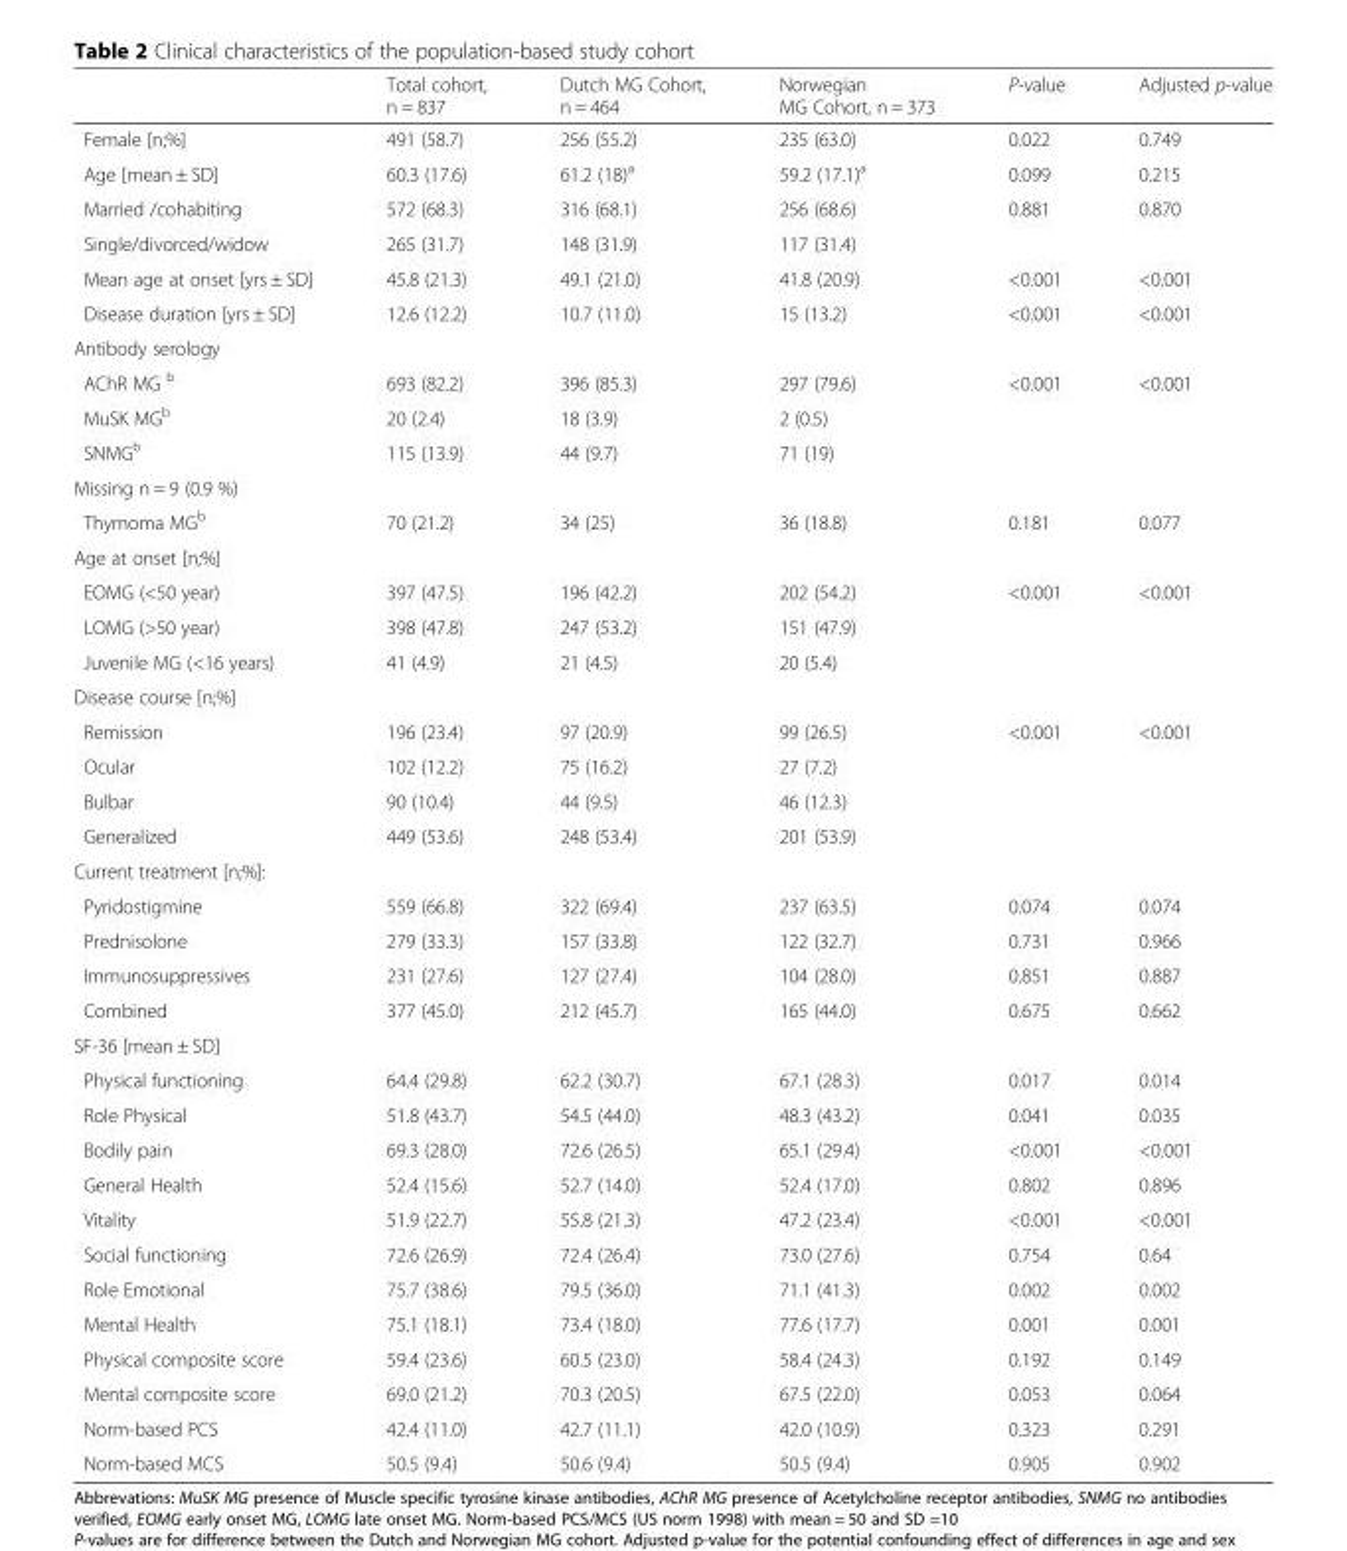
<table><thead><tr><td></td><td>Total cohort, n = 837</td><td>Dutch MG Cohort, n = 464</td><td>Norwegian MG Cohort, n = 373</td><td>P-value</td><td>Adjusted p-value</td></tr></thead><tbody><tr><td>Female [n;%]</td><td>491 (58.7)</td><td>256 (55.2)</td><td>235 (63.0)</td><td>0.022</td><td>0.749</td></tr><tr><td>Age [mean ± SD]</td><td>60.3 (17.6)</td><td>61.2 (18)<sup>a</sup></td><td>59.2 (17.1)<sup>a</sup></td><td>0.099</td><td>0.215</td></tr><tr><td>Married /cohabiting</td><td>572 (68.3)</td><td>316 (68.1)</td><td>256 (68.6)</td><td rowspan="2">0.881</td><td rowspan="2">0.870</td></tr><tr><td>Single/divorced/widow</td><td>265 (31.7)</td><td>148 (31.9)</td><td>117 (31.4)</td></tr><tr><td>Mean age at onset [yrs ± SD]</td><td>45.8 (21.3)</td><td>49.1 (21.0)</td><td>41.8 (20.9)</td><td>&lt;0.001</td><td>&lt;0.001</td></tr><tr><td>Disease duration [yrs ± SD]</td><td>12.6 (12.2)</td><td>10.7 (11.0)</td><td>15 (13.2)</td><td>&lt;0.001</td><td>&lt;0.001</td></tr><tr><td colspan="6">Antibody serology</td></tr><tr><td>AChR MG <sup>b</sup></td><td>693 (82.2)</td><td>396 (85.3)</td><td>297 (79.6)</td><td>&lt;0.001</td><td>&lt;0.001</td></tr><tr><td>MuSK MG<sup>b</sup></td><td>20 (2.4)</td><td>18 (3.9)</td><td>2 (0.5)</td><td></td><td></td></tr><tr><td>SNMG<sup>b</sup></td><td>115 (13.9)</td><td>44 (9.7)</td><td>71 (19)</td><td></td><td></td></tr><tr><td colspan="6">Missing n = 9 (0.9 %)</td></tr><tr><td>Thymoma MG<sup>b</sup></td><td>70 (21.2)</td><td>34 (25)</td><td>36 (18.8)</td><td>0.181</td><td>0.077</td></tr><tr><td colspan="6">Age at onset [n;%]</td></tr><tr><td>EOMG (&lt;50 year)</td><td>397 (47.5)</td><td>196 (42.2)</td><td>202 (54.2)</td><td>&lt;0.001</td><td>&lt;0.001</td></tr><tr><td>LOMG (&gt;50 year)</td><td>398 (47.8)</td><td>247 (53.2)</td><td>151 (47.9)</td><td></td><td></td></tr><tr><td>Juvenile MG (&lt;16 years)</td><td>41 (4.9)</td><td>21 (4.5)</td><td>20 (5.4)</td><td></td><td></td></tr><tr><td colspan="6">Disease course [n;%]</td></tr><tr><td>Remission</td><td>196 (23.4)</td><td>97 (20.9)</td><td>99 (26.5)</td><td>&lt;0.001</td><td>&lt;0.001</td></tr><tr><td>Ocular</td><td>102 (12.2)</td><td>75 (16.2)</td><td>27 (7.2)</td><td></td><td></td></tr><tr><td>Bulbar</td><td>90 (10.4)</td><td>44 (9.5)</td><td>46 (12.3)</td><td></td><td></td></tr><tr><td>Generalized</td><td>449 (53.6)</td><td>248 (53.4)</td><td>201 (53.9)</td><td></td><td></td></tr><tr><td colspan="6">Current treatment [n;%]:</td></tr><tr><td>Pyridostigmine</td><td>559 (66.8)</td><td>322 (69.4)</td><td>237 (63.5)</td><td>0.074</td><td>0.074</td></tr><tr><td>Prednisolone</td><td>279 (33.3)</td><td>157 (33.8)</td><td>122 (32.7)</td><td>0.731</td><td>0.966</td></tr><tr><td>Immunosuppressives</td><td>231 (27.6)</td><td>127 (27.4)</td><td>104 (28.0)</td><td>0.851</td><td>0.887</td></tr><tr><td>Combined</td><td>377 (45.0)</td><td>212 (45.7)</td><td>165 (44.0)</td><td>0.675</td><td>0.662</td></tr><tr><td colspan="6">SF-36 [mean ± SD]</td></tr><tr><td>Physical functioning</td><td>64.4 (29.8)</td><td>62.2 (30.7)</td><td>67.1 (28.3)</td><td>0.017</td><td>0.014</td></tr><tr><td>Role Physical</td><td>51.8 (43.7)</td><td>54.5 (44.0)</td><td>48.3 (43.2)</td><td>0.041</td><td>0.035</td></tr><tr><td>Bodily pain</td><td>69.3 (28.0)</td><td>72.6 (26.5)</td><td>65.1 (29.4)</td><td>&lt;0.001</td><td>&lt;0.001</td></tr><tr><td>General Health</td><td>52.4 (15.6)</td><td>52.7 (14.0)</td><td>52.4 (17.0)</td><td>0.802</td><td>0.896</td></tr><tr><td>Vitality</td><td>51.9 (22.7)</td><td>55.8 (21.3)</td><td>47.2 (23.4)</td><td>&lt;0.001</td><td>&lt;0.001</td></tr><tr><td>Social functioning</td><td>72.6 (26.9)</td><td>72.4 (26.4)</td><td>73.0 (27.6)</td><td>0.754</td><td>0.64</td></tr><tr><td>Role Emotional</td><td>75.7 (38.6)</td><td>79.5 (36.0)</td><td>71.1 (41.3)</td><td>0.002</td><td>0.002</td></tr><tr><td>Mental Health</td><td>75.1 (18.1)</td><td>73.4 (18.0)</td><td>77.6 (17.7)</td><td>0.001</td><td>0.001</td></tr><tr><td>Physical composite score</td><td>59.4 (23.6)</td><td>60.5 (23.0)</td><td>58.4 (24.3)</td><td>0.192</td><td>0.149</td></tr><tr><td>Mental composite score</td><td>69.0 (21.2)</td><td>70.3 (20.5)</td><td>67.5 (22.0)</td><td>0.053</td><td>0.064</td></tr><tr><td>Norm-based PCS</td><td>42.4 (11.0)</td><td>42.7 (11.1)</td><td>42.0 (10.9)</td><td>0.323</td><td>0.291</td></tr><tr><td>Norm-based MCS</td><td>50.5 (9.4)</td><td>50.6 (9.4)</td><td>50.5 (9.4)</td><td>0.905</td><td>0.902</td></tr></tbody></table>